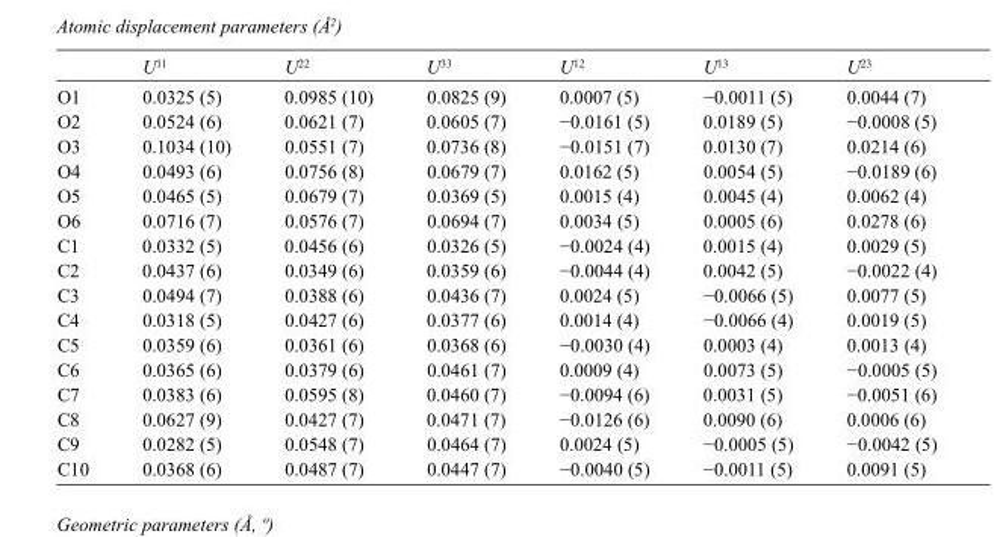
<table><thead><tr><td></td><td>U<sup>11</sup></td><td>U<sup>22</sup></td><td>U<sup>33</sup></td><td>U<sup>12</sup></td><td>U<sup>13</sup></td><td>U<sup>23</sup></td></tr></thead><tbody><tr><td>O1</td><td>0.0325 (5)</td><td>0.0985 (10)</td><td>0.0825 (9)</td><td>0.0007 (5)</td><td>−0.0011 (5)</td><td>0.0044 (7)</td></tr><tr><td>O2</td><td>0.0524 (6)</td><td>0.0621 (7)</td><td>0.0605 (7)</td><td>−0.0161 (5)</td><td>0.0189 (5)</td><td>−0.0008 (5)</td></tr><tr><td>O3</td><td>0.1034 (10)</td><td>0.0551 (7)</td><td>0.0736 (8)</td><td>−0.0151 (7)</td><td>0.0130 (7)</td><td>0.0214 (6)</td></tr><tr><td>O4</td><td>0.0493 (6)</td><td>0.0756 (8)</td><td>0.0679 (7)</td><td>0.0162 (5)</td><td>0.0054 (5)</td><td>−0.0189 (6)</td></tr><tr><td>O5</td><td>0.0465 (5)</td><td>0.0679 (7)</td><td>0.0369 (5)</td><td>0.0015 (4)</td><td>0.0045 (4)</td><td>0.0062 (4)</td></tr><tr><td>O6</td><td>0.0716 (7)</td><td>0.0576 (7)</td><td>0.0694 (7)</td><td>0.0034 (5)</td><td>0.0005 (6)</td><td>0.0278 (6)</td></tr><tr><td>C1</td><td>0.0332 (5)</td><td>0.0456 (6)</td><td>0.0326 (5)</td><td>−0.0024 (4)</td><td>0.0015 (4)</td><td>0.0029 (5)</td></tr><tr><td>C2</td><td>0.0437 (6)</td><td>0.0349 (6)</td><td>0.0359 (6)</td><td>−0.0044 (4)</td><td>0.0042 (5)</td><td>−0.0022 (4)</td></tr><tr><td>C3</td><td>0.0494 (7)</td><td>0.0388 (6)</td><td>0.0436 (7)</td><td>0.0024 (5)</td><td>−0.0066 (5)</td><td>0.0077 (5)</td></tr><tr><td>C4</td><td>0.0318 (5)</td><td>0.0427 (6)</td><td>0.0377 (6)</td><td>0.0014 (4)</td><td>−0.0066 (4)</td><td>0.0019 (5)</td></tr><tr><td>C5</td><td>0.0359 (6)</td><td>0.0361 (6)</td><td>0.0368 (6)</td><td>−0.0030 (4)</td><td>0.0003 (4)</td><td>0.0013 (4)</td></tr><tr><td>C6</td><td>0.0365 (6)</td><td>0.0379 (6)</td><td>0.0461 (7)</td><td>0.0009 (4)</td><td>0.0073 (5)</td><td>−0.0005 (5)</td></tr><tr><td>C7</td><td>0.0383 (6)</td><td>0.0595 (8)</td><td>0.0460 (7)</td><td>−0.0094 (6)</td><td>0.0031 (5)</td><td>−0.0051 (6)</td></tr><tr><td>C8</td><td>0.0627 (9)</td><td>0.0427 (7)</td><td>0.0471 (7)</td><td>−0.0126 (6)</td><td>0.0090 (6)</td><td>0.0006 (6)</td></tr><tr><td>C9</td><td>0.0282 (5)</td><td>0.0548 (7)</td><td>0.0464 (7)</td><td>0.0024 (5)</td><td>−0.0005 (5)</td><td>−0.0042 (5)</td></tr><tr><td>C10</td><td>0.0368 (6)</td><td>0.0487 (7)</td><td>0.0447 (7)</td><td>−0.0040 (5)</td><td>−0.0011 (5)</td><td>0.0091 (5)</td></tr></tbody></table>